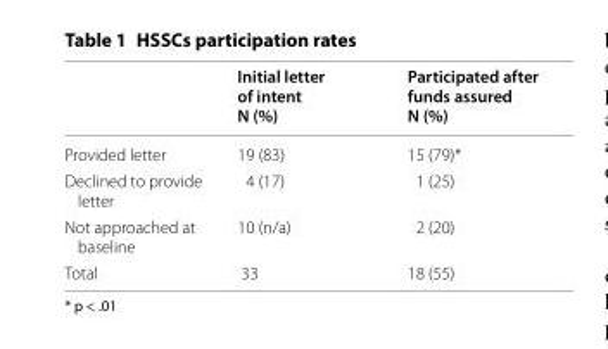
<table><thead><tr><td></td><td>Initial letter of intent N (%)</td><td>Participated after funds assured N (%)</td></tr></thead><tbody><tr><td>Provided letter</td><td>19 (83)</td><td>15 (79)*</td></tr><tr><td>Declined to provide letter</td><td>4 (17)</td><td>1 (25)</td></tr><tr><td>Not approached at baseline</td><td>10 (n/a)</td><td>2 (20)</td></tr><tr><td>Total</td><td>33</td><td>18 (55)</td></tr></tbody></table>